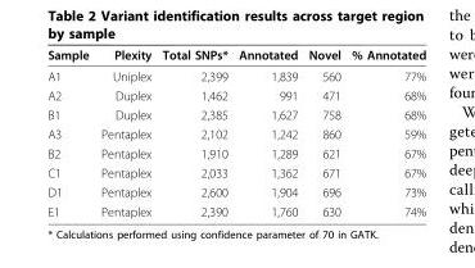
<table><thead><tr><td>Sample</td><td>Plexity</td><td>Total SNPs*</td><td>Annotated</td><td>Novel</td><td>% Annotated</td></tr></thead><tbody><tr><td>A1</td><td>Uniplex</td><td>2,399</td><td>1,839</td><td>560</td><td>77%</td></tr><tr><td>A2</td><td>Duplex</td><td>1,462</td><td>991</td><td>471</td><td>68%</td></tr><tr><td>B1</td><td>Duplex</td><td>2,385</td><td>1,627</td><td>758</td><td>68%</td></tr><tr><td>A3</td><td>Pentaplex</td><td>2,102</td><td>1,242</td><td>860</td><td>59%</td></tr><tr><td>B2</td><td>Pentaplex</td><td>1,910</td><td>1,289</td><td>621</td><td>67%</td></tr><tr><td>C1</td><td>Pentaplex</td><td>2,033</td><td>1,362</td><td>671</td><td>67%</td></tr><tr><td>D1</td><td>Pentaplex</td><td>2,600</td><td>1,904</td><td>696</td><td>73%</td></tr><tr><td>E1</td><td>Pentaplex</td><td>2,390</td><td>1,760</td><td>630</td><td>74%</td></tr></tbody></table>